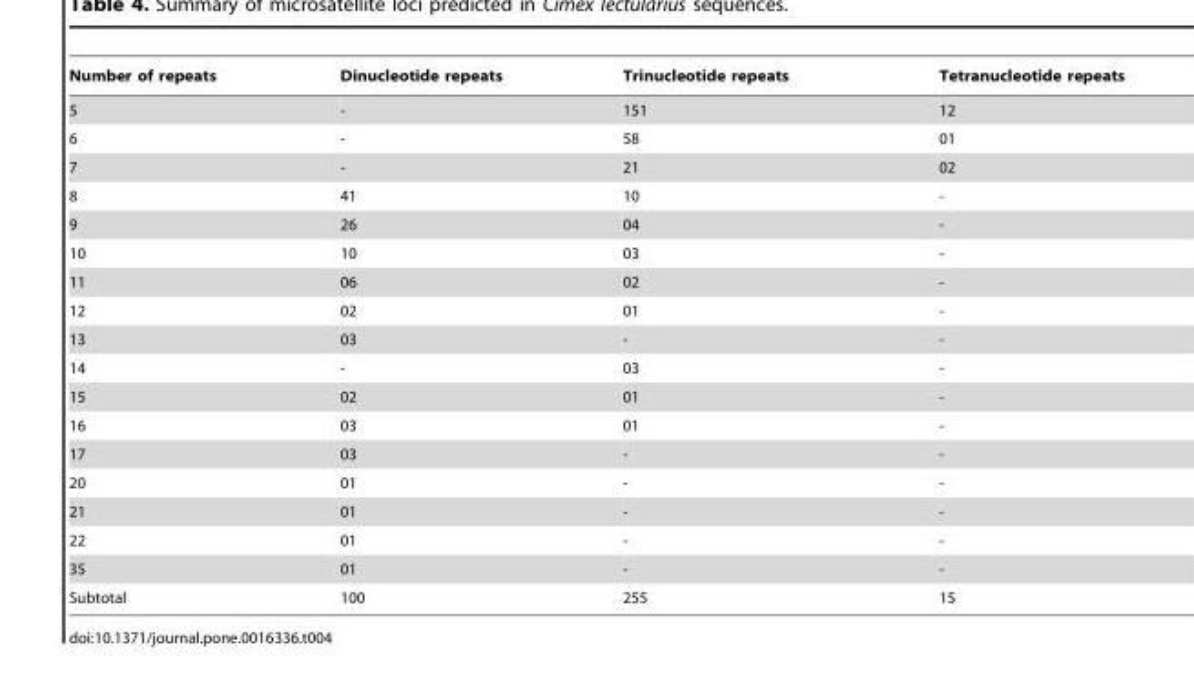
<table><thead><tr><td>Number of repeats</td><td>Dinucleotide repeats</td><td>Trinucleotide repeats</td><td>Tetranucleotide repeats</td></tr></thead><tbody><tr><td>5</td><td>-</td><td>151</td><td>12</td></tr><tr><td>6</td><td>-</td><td>58</td><td>01</td></tr><tr><td>7</td><td>-</td><td>21</td><td>02</td></tr><tr><td>8</td><td>41</td><td>10</td><td>-</td></tr><tr><td>9</td><td>26</td><td>04</td><td>-</td></tr><tr><td>10</td><td>10</td><td>03</td><td>-</td></tr><tr><td>11</td><td>06</td><td>02</td><td>-</td></tr><tr><td>12</td><td>02</td><td>01</td><td>-</td></tr><tr><td>13</td><td>03</td><td>-</td><td>-</td></tr><tr><td>14</td><td>-</td><td>03</td><td>-</td></tr><tr><td>15</td><td>02</td><td>01</td><td>-</td></tr><tr><td>16</td><td>03</td><td>01</td><td>-</td></tr><tr><td>17</td><td>03</td><td>-</td><td>-</td></tr><tr><td>20</td><td>01</td><td>-</td><td>-</td></tr><tr><td>21</td><td>01</td><td>-</td><td>-</td></tr><tr><td>22</td><td>01</td><td>-</td><td>-</td></tr><tr><td>35</td><td>01</td><td>-</td><td>-</td></tr><tr><td>Subtotal</td><td>100</td><td>255</td><td>15</td></tr></tbody></table>